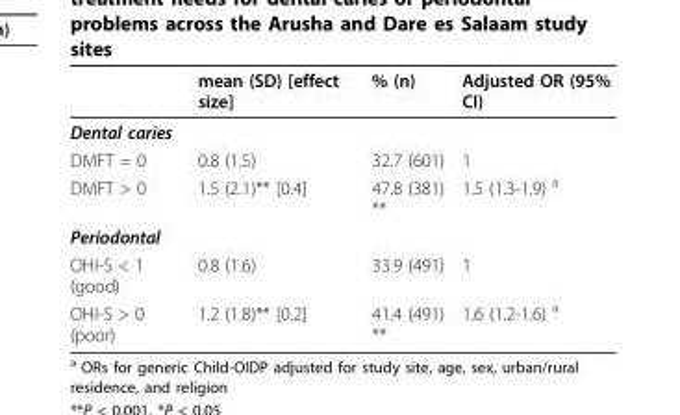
<table><thead><tr><td></td><td>mean (SD) [effect size]</td><td>% (n)</td><td>Adjusted OR (95% CI)</td></tr></thead><tbody><tr><td colspan="4">Dental caries</td></tr><tr><td>DMFT = 0</td><td>0.8 (1.5)</td><td>32.7 (601)</td><td>1</td></tr><tr><td>DMFT &gt; 0</td><td>1.5 (2.1)** [0.4]</td><td>47.8 (381) **</td><td>1.5 (1.3-1.9) <sup>a</sup></td></tr><tr><td colspan="4">Periodontal</td></tr><tr><td>OHI-S &lt; 1 (good)</td><td>0.8 (1.6)</td><td>33.9 (491)</td><td>1</td></tr><tr><td>OHI-S &gt; 0 (poor)</td><td>1.2 (1.8)** [0.2]</td><td>41.4 (491) **</td><td>1.6 (1.2-1.6) <sup>a</sup></td></tr></tbody></table>